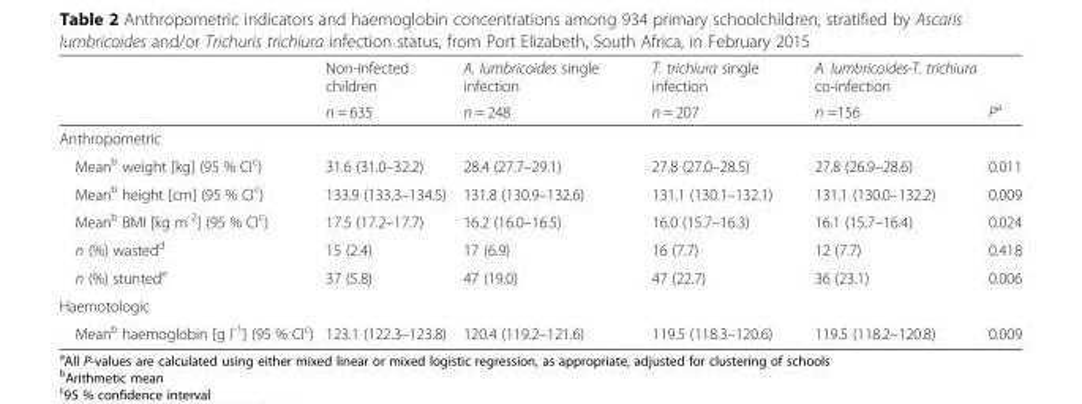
<table><thead><tr><td rowspan="2"></td><td rowspan="2">Non-infected children n = 635</td><td rowspan="2">A. lumbricoides single infection n = 248</td><td rowspan="2">T. trichiura single infection n = 207</td><td rowspan="2">A. lumbricoides-T. trichiura co-infection n =156</td><td rowspan="2">P<sup>a</sup></td></tr><tr></tr></thead><tbody><tr><td colspan="6">Anthropometric</td></tr><tr><td>Mean<sup>b</sup> weight [kg] (95 % CI<sup>c</sup>)</td><td>31.6 (31.0–32.2)</td><td>28.4 (27.7–29.1)</td><td>27.8 (27.0–28.5)</td><td>27.8 (26.9–28.6)</td><td>0.011</td></tr><tr><td>Mean<sup>b</sup> height [cm] (95 % CI<sup>c</sup>)</td><td>133.9 (133.3–134.5)</td><td>131.8 (130.9–132.6)</td><td>131.1 (130.1–132.1)</td><td>131.1 (130.0–132.2)</td><td>0.009</td></tr><tr><td>Mean<sup>b</sup> BMI [kg m<sup>-2</sup>] (95 % CI<sup>c</sup>)</td><td>17.5 (17.2–17.7)</td><td>16.2 (16.0–16.5)</td><td>16.0 (15.7–16.3)</td><td>16.1 (15.7–16.4)</td><td>0.024</td></tr><tr><td>n (%) wasted<sup>d</sup></td><td>15 (2.4)</td><td>17 (6.9)</td><td>16 (7.7)</td><td>12 (7.7)</td><td>0.418</td></tr><tr><td>n (%) stunted<sup>e</sup></td><td>37 (5.8)</td><td>47 (19.0)</td><td>47 (22.7)</td><td>36 (23.1)</td><td>0.006</td></tr><tr><td colspan="6">Haemotologic</td></tr><tr><td>Mean<sup>b</sup> haemoglobin [g l<sup>-1</sup>] (95 % CI<sup>c</sup>)</td><td>123.1 (122.3–123.8)</td><td>120.4 (119.2–121.6)</td><td>119.5 (118.3–120.6)</td><td>119.5 (118.2–120.8)</td><td>0.009</td></tr></tbody></table>